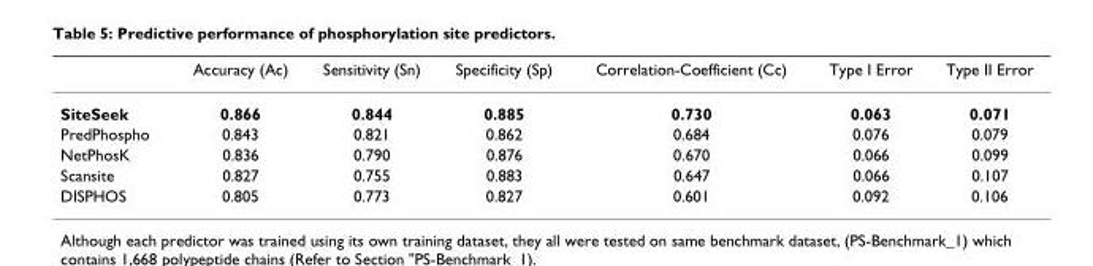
<table><thead><tr><td></td><td>Accuracy (Ac)</td><td>Sensitivity (Sn)</td><td>Specificity (Sp)</td><td>Correlation-Coefficient (Cc)</td><td>Type I Error</td><td>Type II Error</td></tr></thead><tbody><tr><td>SiteSeek</td><td>0.866</td><td>0.844</td><td>0.885</td><td>0.730</td><td>0.063</td><td>0.071</td></tr><tr><td>PredPhospho</td><td>0.843</td><td>0.821</td><td>0.862</td><td>0.684</td><td>0.076</td><td>0.079</td></tr><tr><td>NetPhosK</td><td>0.836</td><td>0.790</td><td>0.876</td><td>0.670</td><td>0.066</td><td>0.099</td></tr><tr><td>Scansite</td><td>0.827</td><td>0.755</td><td>0.883</td><td>0.647</td><td>0.066</td><td>0.107</td></tr><tr><td>DISPHOS</td><td>0.805</td><td>0.773</td><td>0.827</td><td>0.601</td><td>0.092</td><td>0.106</td></tr></tbody></table>